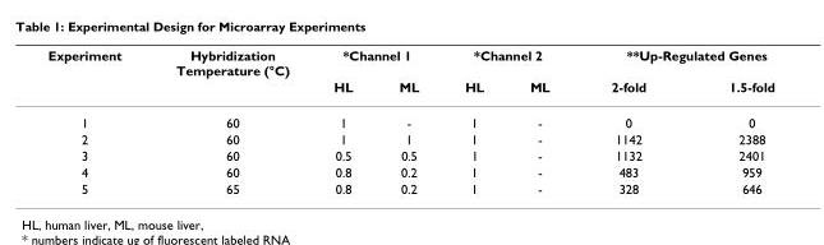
<table><thead><tr><td rowspan="2">Experiment</td><td rowspan="2">Hybridization Temperature (°C)</td><td colspan="2">*Channel 1</td><td colspan="2">*Channel 2</td><td colspan="2">**Up-Regulated Genes</td></tr><tr><td>HL</td><td>ML</td><td>HL</td><td>ML</td><td>2-fold</td><td>1.5-fold</td></tr></thead><tbody><tr><td>1</td><td>60</td><td>1</td><td>-</td><td>1</td><td>-</td><td>0</td><td>0</td></tr><tr><td>2</td><td>60</td><td>1</td><td>1</td><td>1</td><td>-</td><td>1142</td><td>2388</td></tr><tr><td>3</td><td>60</td><td>0.5</td><td>0.5</td><td>1</td><td>-</td><td>1132</td><td>2401</td></tr><tr><td>4</td><td>60</td><td>0.8</td><td>0.2</td><td>1</td><td>-</td><td>483</td><td>959</td></tr><tr><td>5</td><td>65</td><td>0.8</td><td>0.2</td><td>1</td><td>-</td><td>328</td><td>646</td></tr></tbody></table>